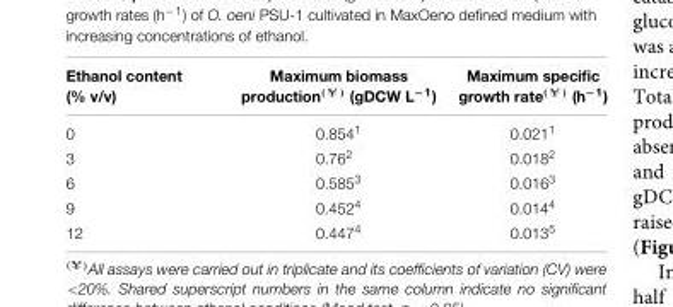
<table><thead><tr><td>Ethanol content (% v/v)</td><td>Maximum biomass production<sup>(¥)</sup> (gDCW L<sup>−1</sup>)</td><td>Maximum specific growth rate<sup>(¥)</sup> (h<sup>−1</sup>)</td></tr></thead><tbody><tr><td>0</td><td>0.854<sup>1</sup></td><td>0.021<sup>1</sup></td></tr><tr><td>3</td><td>0.76<sup>2</sup></td><td>0.018<sup>2</sup></td></tr><tr><td>6</td><td>0.585<sup>3</sup></td><td>0.016<sup>3</sup></td></tr><tr><td>9</td><td>0.452<sup>4</sup></td><td>0.014<sup>4</sup></td></tr><tr><td>12</td><td>0.447<sup>4</sup></td><td>0.013<sup>5</sup></td></tr></tbody></table>